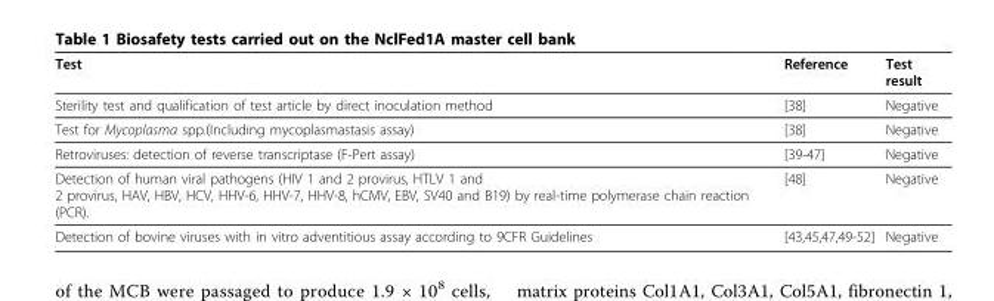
<table><thead><tr><td>Test</td><td>Reference</td><td>Test result</td></tr></thead><tbody><tr><td>Sterility test and qualification of test article by direct inoculation method</td><td>[38]</td><td>Negative</td></tr><tr><td>Test for Mycoplasma spp.(Including mycoplasmastasis assay)</td><td>[38]</td><td>Negative</td></tr><tr><td>Retroviruses: detection of reverse transcriptase (F-Pert assay)</td><td>[39-47]</td><td>Negative</td></tr><tr><td>Detection of human viral pathogens (HIV 1 and 2 provirus, HTLV 1 and 2 provirus, HAV, HBV, HCV, HHV-6, HHV-7, HHV-8, hCMV, EBV, SV40 and B19) by real-time polymerase chain reaction (PCR).</td><td>[48]</td><td>Negative</td></tr><tr><td>Detection of bovine viruses with in vitro adventitious assay according to 9CFR Guidelines</td><td>[43,45,47,49-52]</td><td>Negative</td></tr></tbody></table>